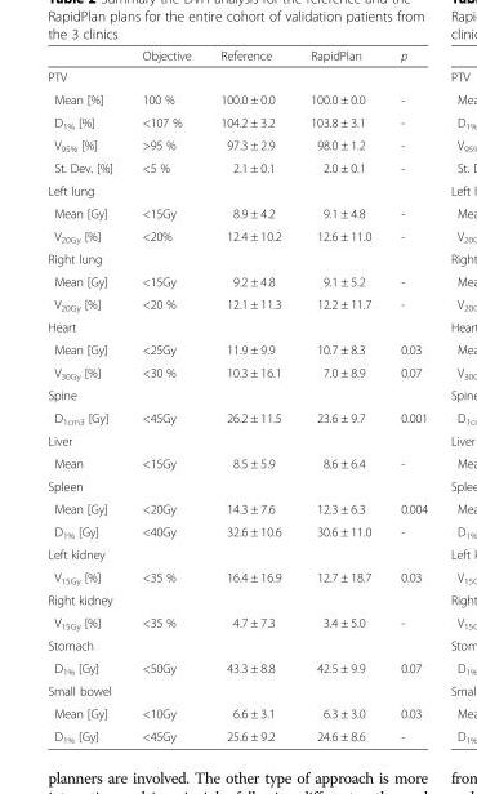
<table><thead><tr><td></td><td>Objective</td><td>Reference</td><td>RapidPlan</td><td>p</td></tr></thead><tbody><tr><td colspan="5">PTV</td></tr><tr><td>Mean [%]</td><td>100 %</td><td>100.0 ± 0.0</td><td>100.0 ± 0.0</td><td>-</td></tr><tr><td>D<sub>1%</sub> [%]</td><td>&lt;107 %</td><td>104.2 ± 3.2</td><td>103.8 ± 3.1</td><td>-</td></tr><tr><td>V<sub>95%</sub> [%]</td><td>&gt;95 %</td><td>97.3 ± 2.9</td><td>98.0 ± 1.2</td><td>-</td></tr><tr><td>St. Dev. [%]</td><td>&lt;5 %</td><td>2.1 ± 0.1</td><td>2.0 ± 0.1</td><td>-</td></tr><tr><td colspan="5">Left lung</td></tr><tr><td>Mean [Gy]</td><td>&lt;15Gy</td><td>8.9 ± 4.2</td><td>9.1 ± 4.8</td><td>-</td></tr><tr><td>V<sub>20Gy</sub> [%]</td><td>&lt;20%</td><td>12.4 ± 10.2</td><td>12.6 ± 11.0</td><td>-</td></tr><tr><td colspan="5">Right lung</td></tr><tr><td>Mean [Gy]</td><td>&lt;15Gy</td><td>9.2 ± 4.8</td><td>9.1 ± 5.2</td><td>-</td></tr><tr><td>V<sub>20Gy</sub> [%]</td><td>&lt;20 %</td><td>12.1 ± 11.3</td><td>12.2 ± 11.7</td><td>-</td></tr><tr><td colspan="5">Heart</td></tr><tr><td>Mean [Gy]</td><td>&lt;25Gy</td><td>11.9 ± 9.9</td><td>10.7 ± 8.3</td><td>0.03</td></tr><tr><td>V<sub>30Gy</sub> [%]</td><td>&lt;30 %</td><td>10.3 ± 16.1</td><td>7.0 ± 8.9</td><td>0.07</td></tr><tr><td colspan="5">Spine</td></tr><tr><td>D<sub>1cm3</sub> [Gy]</td><td>&lt;45Gy</td><td>26.2 ± 11.5</td><td>23.6 ± 9.7</td><td>0.001</td></tr><tr><td colspan="5">Liver</td></tr><tr><td>Mean</td><td>&lt;15Gy</td><td>8.5 ± 5.9</td><td>8.6 ± 6.4</td><td>-</td></tr><tr><td colspan="5">Spleen</td></tr><tr><td>Mean [Gy]</td><td>&lt;20Gy</td><td>14.3 ± 7.6</td><td>12.3 ± 6.3</td><td>0.004</td></tr><tr><td>D<sub>1%</sub> [Gy]</td><td>&lt;40Gy</td><td>32.6 ± 10.6</td><td>30.6 ± 11.0</td><td>-</td></tr><tr><td colspan="5">Left kidney</td></tr><tr><td>V<sub>15Gy</sub> [%]</td><td>&lt;35 %</td><td>16.4 ± 16.9</td><td>12.7 ± 18.7</td><td>0.03</td></tr><tr><td colspan="5">Right kidney</td></tr><tr><td>V<sub>15Gy</sub> [%]</td><td>&lt;35 %</td><td>4.7 ± 7.3</td><td>3.4 ± 5.0</td><td>-</td></tr><tr><td colspan="5">Stomach</td></tr><tr><td>D<sub>1%</sub> [Gy]</td><td>&lt;50Gy</td><td>43.3 ± 8.8</td><td>42.5 ± 9.9</td><td>0.07</td></tr><tr><td colspan="5">Small bowel</td></tr><tr><td>Mean [Gy]</td><td>&lt;10Gy</td><td>6.6 ± 3.1</td><td>6.3 ± 3.0</td><td>0.03</td></tr><tr><td>D<sub>1%</sub> [Gy]</td><td>&lt;45Gy</td><td>25.6 ± 9.2</td><td>24.6 ± 8.6</td><td>-</td></tr></tbody></table>